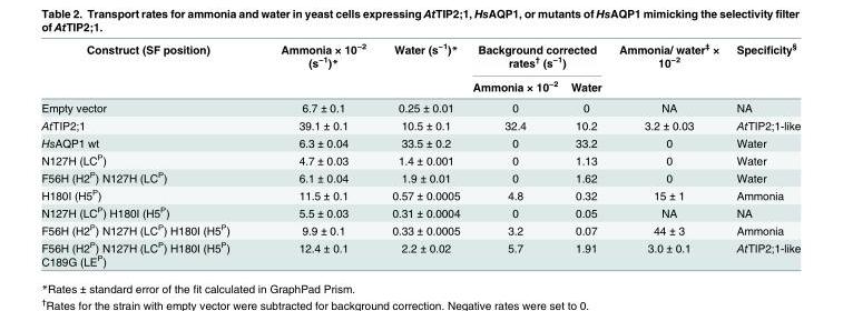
<table><thead><tr><td rowspan="2">Construct (SF position)</td><td rowspan="2">Ammonia × 10<sup>−2</sup> (s<sup>−1</sup>)*</td><td rowspan="2">Water (s<sup>−1</sup>)*</td><td colspan="2">Background corrected rates<sup>†</sup> (s<sup>−1</sup>)</td><td rowspan="2">Ammonia/ water<sup>‡</sup> × 10<sup>−2</sup></td><td rowspan="2">Specificity<sup>§</sup></td></tr><tr><td>Ammonia × 10<sup>−2</sup></td><td>Water</td></tr></thead><tbody><tr><td>Empty vector</td><td>6.7 ± 0.1</td><td>0.25 ± 0.01</td><td>0</td><td>0</td><td>NA</td><td>NA</td></tr><tr><td>AtTIP2;1</td><td>39.1 ± 0.1</td><td>10.5 ± 0.1</td><td>32.4</td><td>10.2</td><td>3.2 ± 0.03</td><td>AtTIP2;1-like</td></tr><tr><td>HsAQP1 wt</td><td>6.3 ± 0.04</td><td>33.5 ± 0.2</td><td>0</td><td>33.2</td><td>0</td><td>Water</td></tr><tr><td>N127H (LC<sup>P</sup>)</td><td>4.7 ± 0.03</td><td>1.4 ± 0.001</td><td>0</td><td>1.13</td><td>0</td><td>Water</td></tr><tr><td>F56H (H2<sup>P</sup>) N127H (LC<sup>P</sup>)</td><td>6.1 ± 0.04</td><td>1.9 ± 0.01</td><td>0</td><td>1.62</td><td>0</td><td>Water</td></tr><tr><td>H180I (H5<sup>P</sup>)</td><td>11.5 ± 0.1</td><td>0.57 ± 0.0005</td><td>4.8</td><td>0.32</td><td>15 ± 1</td><td>Ammonia</td></tr><tr><td>N127H (LC<sup>P</sup>) H180I (H5<sup>P</sup>)</td><td>5.5 ± 0.03</td><td>0.31 ± 0.0004</td><td>0</td><td>0.05</td><td>NA</td><td>NA</td></tr><tr><td>F56H (H2<sup>P</sup>) N127H (LC<sup>P</sup>) H180I (H5<sup>P</sup>)</td><td>9.9 ± 0.1</td><td>0.33 ± 0.0005</td><td>3.2</td><td>0.07</td><td>44 ± 3</td><td>Ammonia</td></tr><tr><td>F56H (H2<sup>P</sup>) N127H (LC<sup>P</sup>) H180I (H5<sup>P</sup>) C189G (LE<sup>P</sup>)</td><td>12.4 ± 0.1</td><td>2.2 ± 0.02</td><td>5.7</td><td>1.91</td><td>3.0 ± 0.1</td><td>AtTIP2;1-like</td></tr></tbody></table>